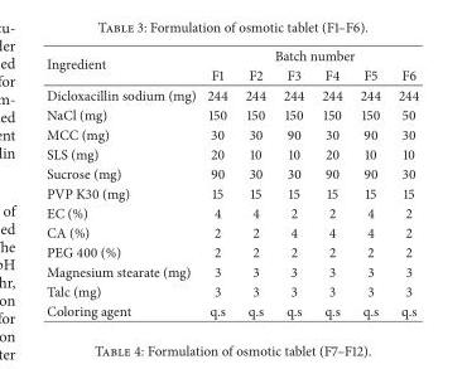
<table><thead><tr><td rowspan="2">Ingredient</td><td colspan="6">Batch number</td></tr><tr><td>F1</td><td>F2</td><td>F3</td><td>F4</td><td>F5</td><td>F6</td></tr></thead><tbody><tr><td>Dicloxacillin sodium (mg)</td><td>244</td><td>244</td><td>244</td><td>244</td><td>244</td><td>244</td></tr><tr><td>NaCl (mg)</td><td>150</td><td>150</td><td>150</td><td>150</td><td>150</td><td>50</td></tr><tr><td>MCC (mg)</td><td>30</td><td>30</td><td>90</td><td>30</td><td>90</td><td>30</td></tr><tr><td>SLS (mg)</td><td>20</td><td>10</td><td>10</td><td>20</td><td>10</td><td>10</td></tr><tr><td>Sucrose (mg)</td><td>90</td><td>30</td><td>30</td><td>90</td><td>90</td><td>30</td></tr><tr><td>PVP K30 (mg)</td><td>15</td><td>15</td><td>15</td><td>15</td><td>15</td><td>15</td></tr><tr><td>EC (%)</td><td>4</td><td>4</td><td>2</td><td>2</td><td>4</td><td>2</td></tr><tr><td>CA (%)</td><td>2</td><td>2</td><td>4</td><td>4</td><td>4</td><td>2</td></tr><tr><td>PEG 400 (%)</td><td>2</td><td>2</td><td>2</td><td>2</td><td>2</td><td>2</td></tr><tr><td>Magnesium stearate (mg)</td><td>3</td><td>3</td><td>3</td><td>3</td><td>3</td><td>3</td></tr><tr><td>Talc (mg)</td><td>3</td><td>3</td><td>3</td><td>3</td><td>3</td><td>3</td></tr><tr><td>Coloring agent</td><td>q.s</td><td>q.s</td><td>q.s</td><td>q.s</td><td>q.s</td><td>q.s</td></tr></tbody></table>